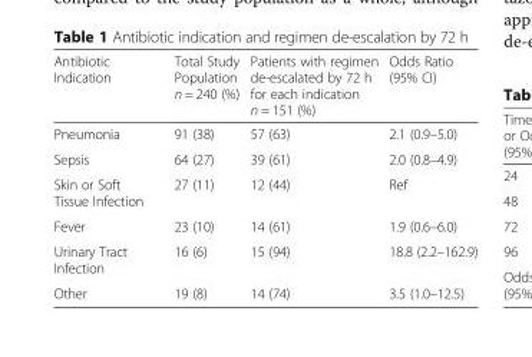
<table><thead><tr><td>Antibiotic Indication</td><td>Total Study Population n = 240 (%)</td><td>Patients with regimen de-escalated by 72 h for each indication n = 151 (%)</td><td>Odds Ratio (95% CI)</td></tr></thead><tbody><tr><td>Pneumonia</td><td>91 (38)</td><td>57 (63)</td><td>2.1 (0.9–5.0)</td></tr><tr><td>Sepsis</td><td>64 (27)</td><td>39 (61)</td><td>2.0 (0.8–4.9)</td></tr><tr><td>Skin or Soft Tissue Infection</td><td>27 (11)</td><td>12 (44)</td><td>Ref</td></tr><tr><td>Fever</td><td>23 (10)</td><td>14 (61)</td><td>1.9 (0.6–6.0)</td></tr><tr><td>Urinary Tract Infection</td><td>16 (6)</td><td>15 (94)</td><td>18.8 (2.2–162.9)</td></tr><tr><td>Other</td><td>19 (8)</td><td>14 (74)</td><td>3.5 (1.0–12.5)</td></tr></tbody></table>